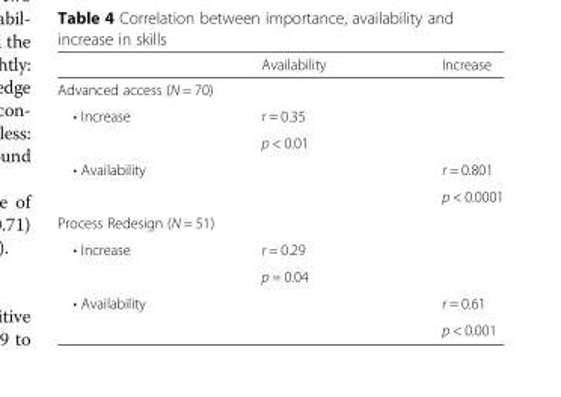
<table><thead><tr><td></td><td>Availability</td><td>Increase</td></tr></thead><tbody><tr><td colspan="3">Advanced access (N = 70)</td></tr><tr><td rowspan="2">• Increase</td><td>r = 0.35</td><td rowspan="2"></td></tr><tr><td>p &lt; 0.01</td></tr><tr><td rowspan="2">• Availability</td><td rowspan="2"></td><td>r = 0.801</td></tr><tr><td>p &lt; 0.0001</td></tr><tr><td colspan="3">Process Redesign (N = 51)</td></tr><tr><td rowspan="2">• Increase</td><td>r = 0.29</td><td rowspan="2"></td></tr><tr><td>p = 0.04</td></tr><tr><td rowspan="2">• Availability</td><td rowspan="2"></td><td>r = 0.61</td></tr><tr><td>p &lt; 0.001</td></tr></tbody></table>